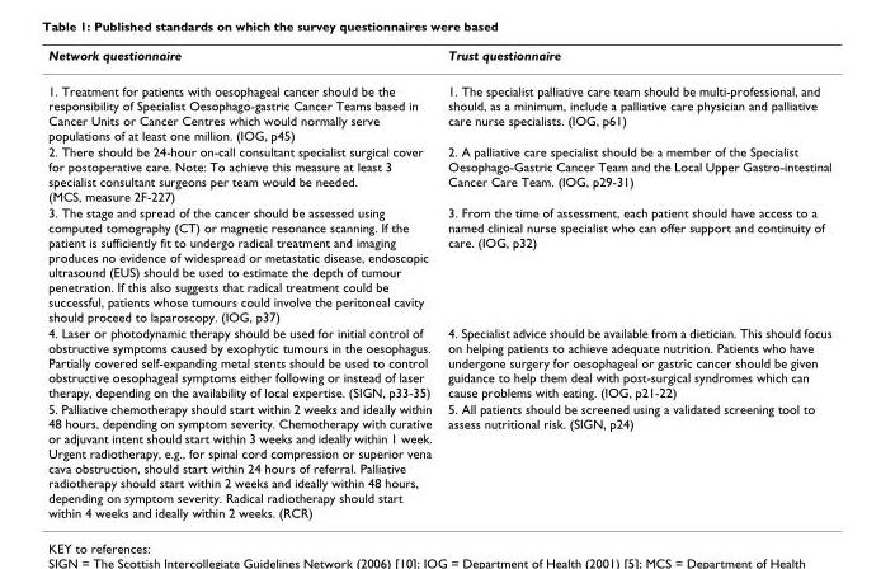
<table><thead><tr><td>Network questionnaire</td><td>Trust questionnaire</td></tr></thead><tbody><tr><td>1. Treatment for patients with oesophageal cancer should be the responsibility of Specialist Oesophago-gastric Cancer Teams based in Cancer Units or Cancer Centres which would normally serve populations of at least one million. (IOG, p45)</td><td>1. The specialist palliative care team should be multi-professional, and should, as a minimum, include a palliative care physician and palliative care nurse specialists. (IOG, p61)</td></tr><tr><td>2. There should be 24-hour on-call consultant specialist surgical cover for postoperative care. Note: To achieve this measure at least 3 specialist consultant surgeons per team would be needed. (MCS, measure 2F-227)</td><td>2. A palliative care specialist should be a member of the Specialist Oesophago-Gastric Cancer Team and the Local Upper Gastro-intestinal Cancer Care Team. (IOG, p29-31)</td></tr><tr><td>3. The stage and spread of the cancer should be assessed using computed tomography (CT) or magnetic resonance scanning. If the patient is sufficiently fit to undergo radical treatment and imaging produces no evidence of widespread or metastatic disease, endoscopic ultrasound (EUS) should be used to estimate the depth of tumour penetration. If this also suggests that radical treatment could be successful, patients whose tumours could involve the peritoneal cavity should proceed to laparoscopy. (IOG, p37)</td><td>3. From the time of assessment, each patient should have access to a named clinical nurse specialist who can offer support and continuity of care. (IOG, p32)</td></tr><tr><td>4. Laser or photodynamic therapy should be used for initial control of obstructive symptoms caused by exophytic tumours in the oesophagus. Partially covered self-expanding metal stents should be used to control obstructive oesophageal symptoms either following or instead of laser therapy, depending on the availability of local expertise. (SIGN, p33-35)</td><td>4. Specialist advice should be available from a dietician. This should focus on helping patients to achieve adequate nutrition. Patients who have undergone surgery for oesophageal or gastric cancer should be given guidance to help them deal with post-surgical syndromes which can cause problems with eating. (IOG, p21-22)</td></tr><tr><td>5. Palliative chemotherapy should start within 2 weeks and ideally within 48 hours, depending on symptom severity. Chemotherapy with curative or adjuvant intent should start within 3 weeks and ideally within 1 week. Urgent radiotherapy, e.g., for spinal cord compression or superior vena cava obstruction, should start within 24 hours of referral. Palliative radiotherapy should start within 2 weeks and ideally within 48 hours, depending on symptom severity. Radical radiotherapy should start within 4 weeks and ideally within 2 weeks. (RCR)</td><td>5. All patients should be screened using a validated screening tool to assess nutritional risk. (SIGN, p24)</td></tr></tbody></table>